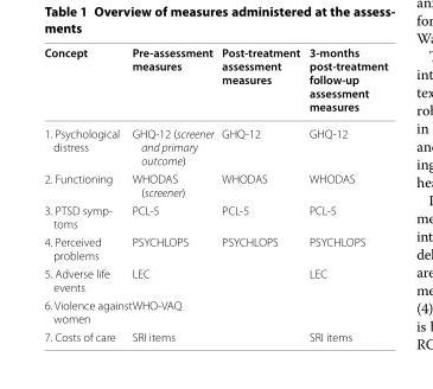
<table><thead><tr><td>Concept</td><td>Pre-assessment measures</td><td>Post-treatment assessment measures</td><td>3-months post-treatment follow-up assessment measures</td></tr></thead><tbody><tr><td>1. Psychological distress</td><td>GHQ-12 (screener and primary outcome)</td><td>GHQ-12</td><td>GHQ-12</td></tr><tr><td>2. Functioning</td><td>WHODAS (screener)</td><td>WHODAS</td><td>WHODAS</td></tr><tr><td>3. PTSD symp- toms</td><td>PCL-5</td><td>PCL-5</td><td>PCL-5</td></tr><tr><td>4. Perceived problems</td><td>PSYCHLOPS</td><td>PSYCHLOPS</td><td>PSYCHLOPS</td></tr><tr><td>5. Adverse life events</td><td>LEC</td><td></td><td>LEC</td></tr><tr><td>6. Violence against women</td><td>WHO-VAQ</td><td></td><td></td></tr><tr><td>7. Costs of care</td><td>SRI items</td><td></td><td>SRI items</td></tr></tbody></table>